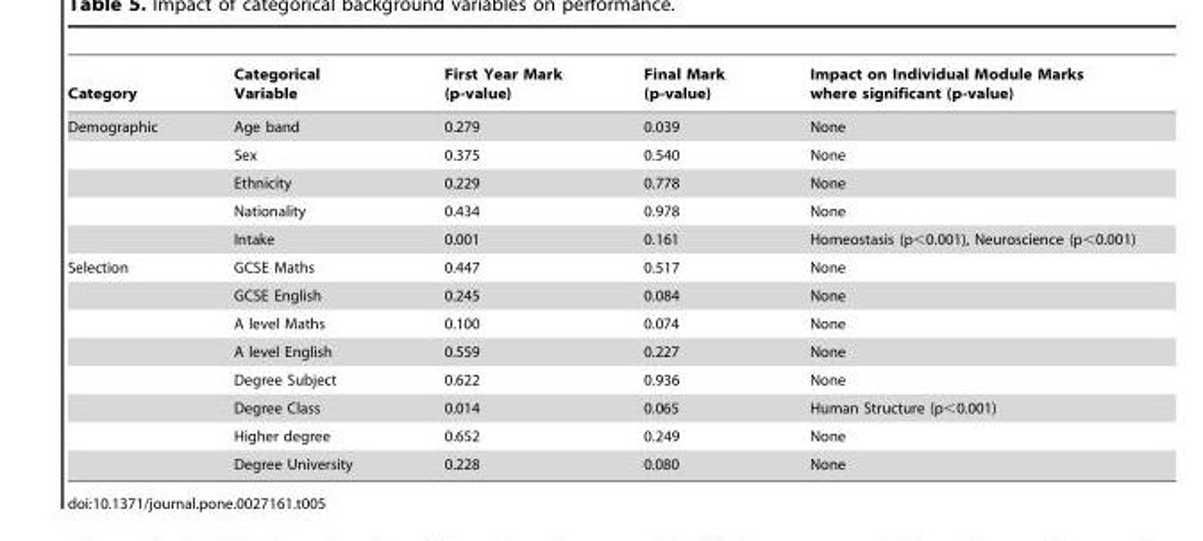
<table><thead><tr><td>Category</td><td>Categorical Variable</td><td>First Year Mark (p-value)</td><td>Final Mark (p-value)</td><td>Impact on Individual Module Marks where significant (p-value)</td></tr></thead><tbody><tr><td rowspan="5">Demographic</td><td>Age band</td><td>0.279</td><td>0.039</td><td>None</td></tr><tr><td>Sex</td><td>0.375</td><td>0.540</td><td>None</td></tr><tr><td>Ethnicity</td><td>0.229</td><td>0.778</td><td>None</td></tr><tr><td>Nationality</td><td>0.434</td><td>0.978</td><td>None</td></tr><tr><td>Intake</td><td>0.001</td><td>0.161</td><td>Homeostasis (p&lt;0.001), Neuroscience (p&lt;0.001)</td></tr><tr><td rowspan="8">Selection</td><td>GCSE Maths</td><td>0.447</td><td>0.517</td><td>None</td></tr><tr><td>GCSE English</td><td>0.245</td><td>0.084</td><td>None</td></tr><tr><td>A level Maths</td><td>0.100</td><td>0.074</td><td>None</td></tr><tr><td>A level English</td><td>0.559</td><td>0.227</td><td>None</td></tr><tr><td>Degree Subject</td><td>0.622</td><td>0.936</td><td>None</td></tr><tr><td>Degree Class</td><td>0.014</td><td>0.065</td><td>Human Structure (p&lt;0.001)</td></tr><tr><td>Higher degree</td><td>0.652</td><td>0.249</td><td>None</td></tr><tr><td>Degree University</td><td>0.228</td><td>0.080</td><td>None</td></tr></tbody></table>